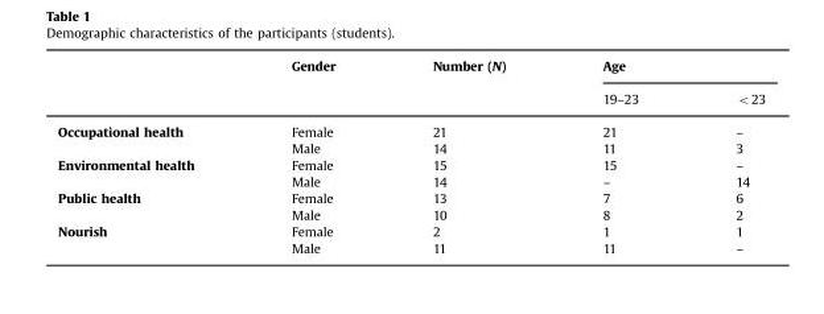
<table><thead><tr><td rowspan="2"></td><td rowspan="2">Gender</td><td rowspan="2">Number (N)</td><td rowspan="2">Age 19–23</td><td rowspan="2">&lt;23</td></tr><tr></tr></thead><tbody><tr><td rowspan="2">Occupational health</td><td>Female</td><td>21</td><td>21</td><td>–</td></tr><tr><td>Male</td><td>14</td><td>11</td><td>3</td></tr><tr><td rowspan="2">Environmental health</td><td>Female</td><td>15</td><td>15</td><td>–</td></tr><tr><td>Male</td><td>14</td><td>–</td><td>14</td></tr><tr><td rowspan="2">Public health</td><td>Female</td><td>13</td><td>7</td><td>6</td></tr><tr><td>Male</td><td>10</td><td>8</td><td>2</td></tr><tr><td rowspan="2">Nourish</td><td>Female</td><td>2</td><td>1</td><td>1</td></tr><tr><td>Male</td><td>11</td><td>11</td><td>–</td></tr></tbody></table>